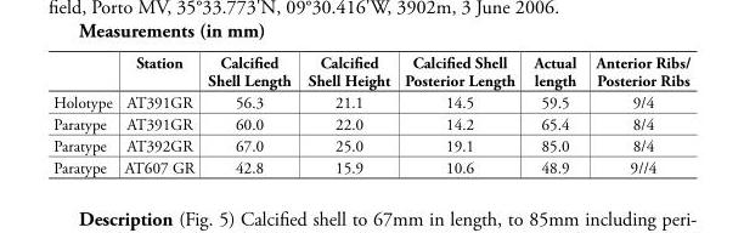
<table><thead><tr><td></td><td>Station</td><td>Calcified Shell Length</td><td>Calcified Shell Height</td><td>Calcified Shell Posterior Length</td><td>Actual length</td><td>Anterior Ribs/ Posterior Ribs</td></tr></thead><tbody><tr><td>Holotype</td><td>AT391GR</td><td>56.3</td><td>21.1</td><td>14.5</td><td>59.5</td><td>9/4</td></tr><tr><td>Paratype</td><td>AT391GR</td><td>60.0</td><td>22.0</td><td>14.2</td><td>65.4</td><td>8/4</td></tr><tr><td>Paratype</td><td>AT392GR</td><td>67.0</td><td>25.0</td><td>19.1</td><td>85.0</td><td>8/4</td></tr><tr><td>Paratype</td><td>AT607 GR</td><td>42.8</td><td>15.9</td><td>10.6</td><td>48.9</td><td>9//4</td></tr></tbody></table>